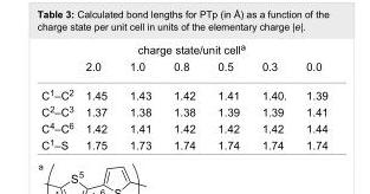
<table><tbody><tr><td colspan="7">charge state/unit cell<sup>a</sup></td></tr><tr><td></td><td>2.0</td><td>1.0</td><td>0.8</td><td>0.5</td><td>0.3</td><td>0.0</td></tr><tr><td>C<sup>1</sup>–C<sup>2</sup></td><td>1.45</td><td>1.43</td><td>1.42</td><td>1.41</td><td>1.40.</td><td>1.39</td></tr><tr><td>C<sup>2</sup>–C<sup>3</sup></td><td>1.37</td><td>1.38</td><td>1.38</td><td>1.39</td><td>1.39</td><td>1.41</td></tr><tr><td>C<sup>4</sup>–C<sup>6</sup></td><td>1.42</td><td>1.41</td><td>1.42</td><td>1.42</td><td>1.42</td><td>1.44</td></tr><tr><td>C<sup>1</sup>–S</td><td>1.75</td><td>1.73</td><td>1.74</td><td>1.74</td><td>1.74</td><td>1.74</td></tr></tbody></table>